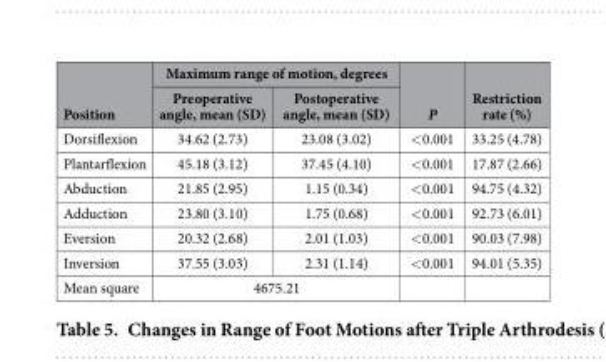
<table><thead><tr><td rowspan="2">Position</td><td colspan="2">Maximum range of motion, degrees</td><td rowspan="2">P</td><td rowspan="2">Restriction rate (%)</td></tr><tr><td>Preoperative angle, mean (SD)</td><td>Postoperative angle, mean (SD)</td></tr></thead><tbody><tr><td>Dorsiflexion</td><td>34.62 (2.73)</td><td>23.08 (3.02)</td><td>&lt; 0.001</td><td>33.25 (4.78)</td></tr><tr><td>Plantarflexion</td><td>45.18 (3.12)</td><td>37.45 (4.10)</td><td>&lt; 0.001</td><td>17.87 (2.66)</td></tr><tr><td>Abduction</td><td>21.85 (2.95)</td><td>1.15 (0.34)</td><td>&lt; 0.001</td><td>94.75 (4.32)</td></tr><tr><td>Adduction</td><td>23.80 (3.10)</td><td>1.75 (0.68)</td><td>&lt; 0.001</td><td>92.73 (6.01)</td></tr><tr><td>Eversion</td><td>20.32 (2.68)</td><td>2.01 (1.03)</td><td>&lt; 0.001</td><td>90.03 (7.98)</td></tr><tr><td>Inversion</td><td>37.55 (3.03)</td><td>2.31 (1.14)</td><td>&lt; 0.001</td><td>94.01 (5.35)</td></tr><tr><td>Mean square</td><td colspan="2">4675.21</td><td></td><td></td></tr></tbody></table>